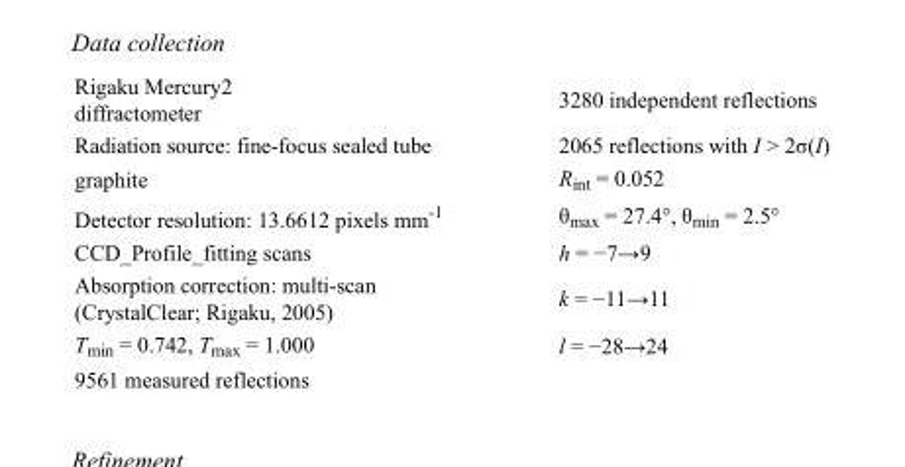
<table><tbody><tr><td>Rigaku Mercury2 diffractometer</td><td>3280 independent reflections</td></tr><tr><td>Radiation source: fine-focus sealed tube</td><td>2065 reflections with I &gt; 2σ(I)</td></tr><tr><td>graphite</td><td>R<sub>int</sub> = 0.052</td></tr><tr><td>Detector resolution: 13.6612 pixels mm<sup>-1</sup></td><td>θ<sub>max</sub> = 27.4°, θ<sub>min</sub> = 2.5°</td></tr><tr><td>CCD_Profile_fitting scans</td><td>h = −7→9</td></tr><tr><td>Absorption correction: multi-scan (CrystalClear; Rigaku, 2005)</td><td>k = −11→11</td></tr><tr><td>T<sub>min</sub> = 0.742, T<sub>max</sub> = 1.000</td><td>l = −28→24</td></tr><tr><td>9561 measured reflections</td><td></td></tr></tbody></table>